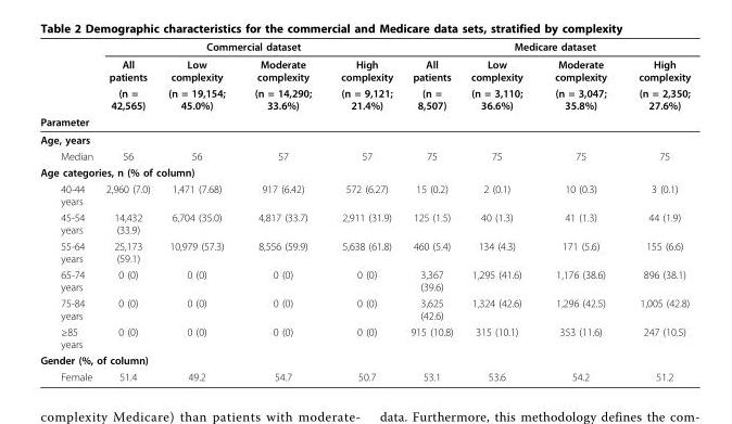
<table><thead><tr><td rowspan="4">Parameter</td><td colspan="4">Commercial dataset</td><td colspan="4">Medicare dataset</td></tr><tr><td rowspan="3">All patients (n = 42,565)</td><td rowspan="3">Low complexity (n = 19,154; 45.0%)</td><td rowspan="3">Moderate complexity (n = 14,290; 33.6%)</td><td rowspan="3">High complexity (n = 9,121; 21.4%)</td><td rowspan="3">All patients (n = 8,507)</td><td rowspan="3">Low complexity (n = 3,110; 36.6%)</td><td rowspan="3">Moderate complexity (n = 3,047; 35.8%)</td><td rowspan="3">High complexity (n = 2,350; 27.6%)</td></tr><tr></tr><tr></tr></thead><tbody><tr><td colspan="9">Age, years</td></tr><tr><td>Median</td><td>56</td><td>56</td><td>57</td><td>57</td><td>75</td><td>75</td><td>75</td><td>75</td></tr><tr><td colspan="9">Age categories, n (% of column)</td></tr><tr><td>40-44 years</td><td>2,960 (7.0)</td><td>1,471 (7.68)</td><td>917 (6.42)</td><td>572 (6.27)</td><td>15 (0.2)</td><td>2 (0.1)</td><td>10 (0.3)</td><td>3 (0.1)</td></tr><tr><td>45-54 years</td><td>14,432 (33.9)</td><td>6,704 (35.0)</td><td>4,817 (33.7)</td><td>2,911 (31.9)</td><td>125 (1.5)</td><td>40 (1.3)</td><td>41 (1.3)</td><td>44 (1.9)</td></tr><tr><td>55-64 years</td><td>25,173 (59.1)</td><td>10,979 (57.3)</td><td>8,556 (59.9)</td><td>5,638 (61.8)</td><td>460 (5.4)</td><td>134 (4.3)</td><td>171 (5.6)</td><td>155 (6.6)</td></tr><tr><td>65-74 years</td><td>0 (0)</td><td>0 (0)</td><td>0 (0)</td><td>0 (0)</td><td>3,367 (39.6)</td><td>1,295 (41.6)</td><td>1,176 (38.6)</td><td>896 (38.1)</td></tr><tr><td>75-84 years</td><td>0 (0)</td><td>0 (0)</td><td>0 (0)</td><td>0 (0)</td><td>3,625 (42.6)</td><td>1,324 (42.6)</td><td>1,296 (42.5)</td><td>1,005 (42.8)</td></tr><tr><td>≥85 years</td><td>0 (0)</td><td>0 (0)</td><td>0 (0)</td><td>0 (0)</td><td>915 (10.8)</td><td>315 (10.1)</td><td>353 (11.6)</td><td>247 (10.5)</td></tr><tr><td colspan="9">Gender (%, of column)</td></tr><tr><td>Female</td><td>51.4</td><td>49.2</td><td>54.7</td><td>50.7</td><td>53.1</td><td>53.6</td><td>54.2</td><td>51.2</td></tr></tbody></table>